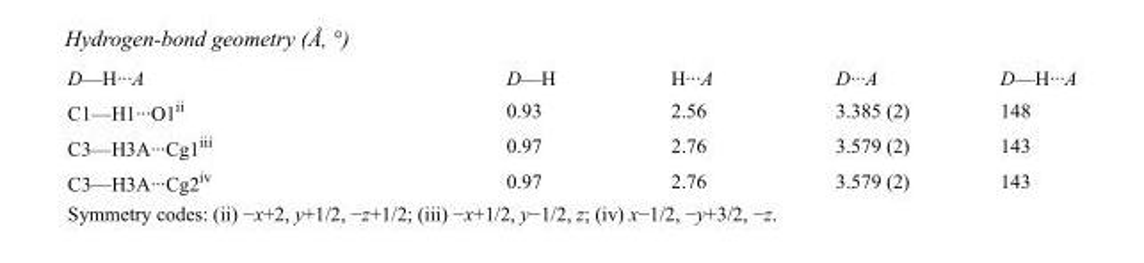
<table><tbody><tr><td>D—H···A</td><td>D—H</td><td>H···A</td><td>D···A</td><td>D—H···A</td></tr><tr><td>C1—H1···O1<sup>ii</sup></td><td>0.93</td><td>2.56</td><td>3.385 (2)</td><td>148</td></tr><tr><td>C3—H3A···Cg1<sup>iii</sup></td><td>0.97</td><td>2.76</td><td>3.579 (2)</td><td>143</td></tr><tr><td>C3—H3A···Cg2<sup>iv</sup></td><td>0.97</td><td>2.76</td><td>3.579 (2)</td><td>143</td></tr></tbody></table>